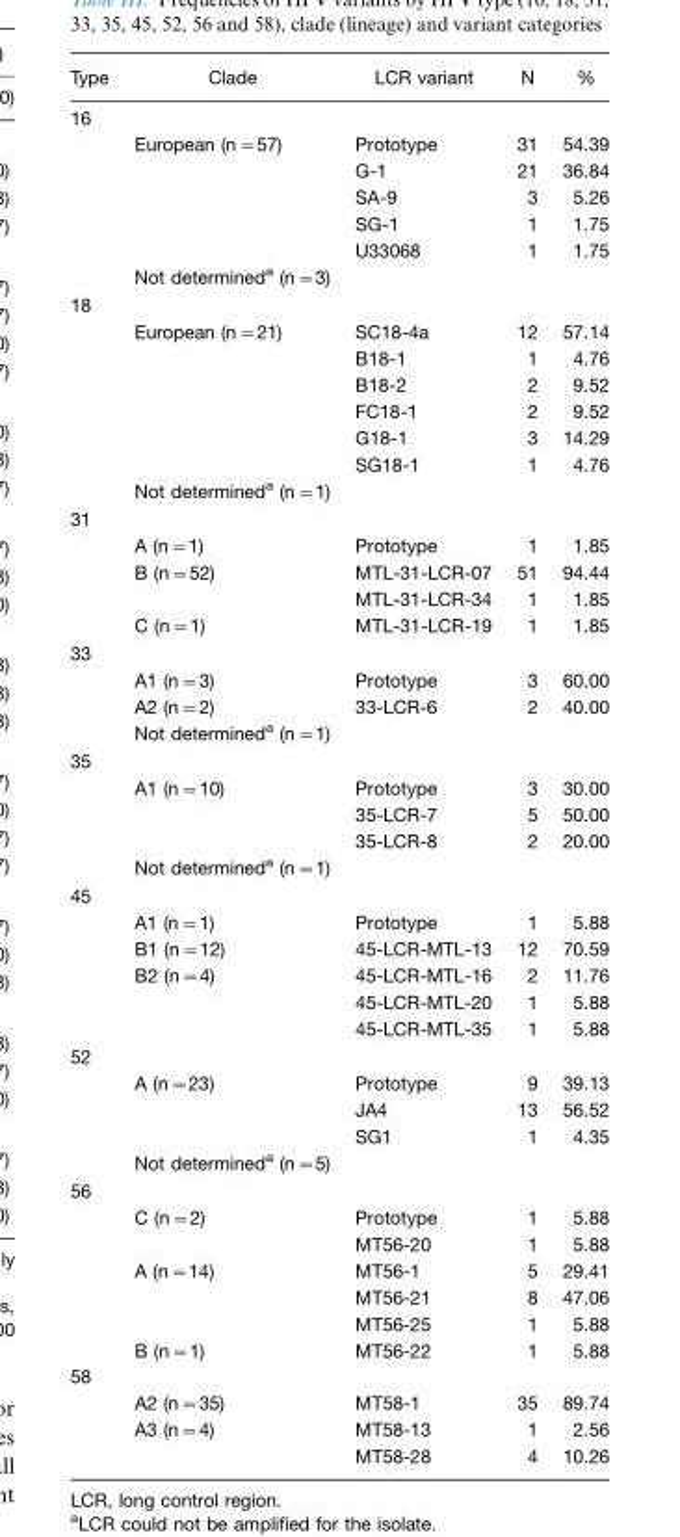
<table><thead><tr><td>Type</td><td>Clade</td><td>LCR variant</td><td>N</td><td>%</td></tr></thead><tbody><tr><td colspan="5">16</td></tr><tr><td></td><td>European (n=57)</td><td>Prototype</td><td>31</td><td>54.39</td></tr><tr><td></td><td></td><td>G-1</td><td>21</td><td>36.84</td></tr><tr><td></td><td></td><td>SA-9</td><td>3</td><td>5.26</td></tr><tr><td></td><td></td><td>SG-1</td><td>1</td><td>1.75</td></tr><tr><td></td><td></td><td>U33068</td><td>1</td><td>1.75</td></tr><tr><td></td><td>Not determined<sup>a</sup> (n=3)</td><td></td><td></td><td></td></tr><tr><td colspan="5">18</td></tr><tr><td></td><td>European (n=21)</td><td>SC18-4a</td><td>12</td><td>57.14</td></tr><tr><td></td><td></td><td>B18-1</td><td>1</td><td>4.76</td></tr><tr><td></td><td></td><td>B18-2</td><td>2</td><td>9.52</td></tr><tr><td></td><td></td><td>FC18-1</td><td>2</td><td>9.52</td></tr><tr><td></td><td></td><td>G18-1</td><td>3</td><td>14.29</td></tr><tr><td></td><td></td><td>SG18-1</td><td>1</td><td>4.76</td></tr><tr><td></td><td>Not determined<sup>a</sup> (n=1)</td><td></td><td></td><td></td></tr><tr><td colspan="5">31</td></tr><tr><td></td><td>A (n=1)</td><td>Prototype</td><td>1</td><td>1.85</td></tr><tr><td></td><td>B (n=52)</td><td>MTL-31-LCR-07</td><td>51</td><td>94.44</td></tr><tr><td></td><td></td><td>MTL-31-LCR-34</td><td>1</td><td>1.85</td></tr><tr><td></td><td>C (n=1)</td><td>MTL-31-LCR-19</td><td>1</td><td>1.85</td></tr><tr><td colspan="5">33</td></tr><tr><td></td><td>A1 (n=3)</td><td>Prototype</td><td>3</td><td>60.00</td></tr><tr><td></td><td>A2 (n=2)</td><td>33-LCR-6</td><td>2</td><td>40.00</td></tr><tr><td></td><td>Not determined<sup>a</sup> (n=1)</td><td></td><td></td><td></td></tr><tr><td colspan="5">35</td></tr><tr><td></td><td>A1 (n=10)</td><td>Prototype</td><td>3</td><td>30.00</td></tr><tr><td></td><td></td><td>35-LCR-7</td><td>5</td><td>50.00</td></tr><tr><td></td><td></td><td>35-LCR-8</td><td>2</td><td>20.00</td></tr><tr><td></td><td>Not determined<sup>a</sup> (n=1)</td><td></td><td></td><td></td></tr><tr><td colspan="5">45</td></tr><tr><td></td><td>A1 (n=1)</td><td>Prototype</td><td>1</td><td>5.88</td></tr><tr><td></td><td>B1 (n=12)</td><td>45-LCR-MTL-13</td><td>12</td><td>70.59</td></tr><tr><td></td><td>B2 (n=4)</td><td>45-LCR-MTL-16</td><td>2</td><td>11.76</td></tr><tr><td></td><td></td><td>45-LCR-MTL-20</td><td>1</td><td>5.88</td></tr><tr><td></td><td></td><td>45-LCR-MTL-35</td><td>1</td><td>5.88</td></tr><tr><td colspan="5">52</td></tr><tr><td></td><td>A (n=23)</td><td>Prototype</td><td>9</td><td>39.13</td></tr><tr><td></td><td></td><td>JA4</td><td>13</td><td>56.52</td></tr><tr><td></td><td></td><td>SG1</td><td>1</td><td>4.35</td></tr><tr><td></td><td>Not determined<sup>a</sup> (n=5)</td><td></td><td></td><td></td></tr><tr><td colspan="5">56</td></tr><tr><td></td><td>C (n=2)</td><td>Prototype</td><td>1</td><td>5.88</td></tr><tr><td></td><td></td><td>MT56-20</td><td>1</td><td>5.88</td></tr><tr><td></td><td>A (n=14)</td><td>MT56-1</td><td>5</td><td>29.41</td></tr><tr><td></td><td></td><td>MT56-21</td><td>8</td><td>47.06</td></tr><tr><td></td><td></td><td>MT56-25</td><td>1</td><td>5.88</td></tr><tr><td></td><td>B (n=1)</td><td>MT56-22</td><td>1</td><td>5.88</td></tr><tr><td colspan="5">58</td></tr><tr><td></td><td>A2 (n=35)</td><td>MT58-1</td><td>35</td><td>89.74</td></tr><tr><td></td><td>A3 (n=4)</td><td>MT58-13</td><td>1</td><td>2.56</td></tr><tr><td></td><td></td><td>MT58-28</td><td>4</td><td>10.26</td></tr></tbody></table>